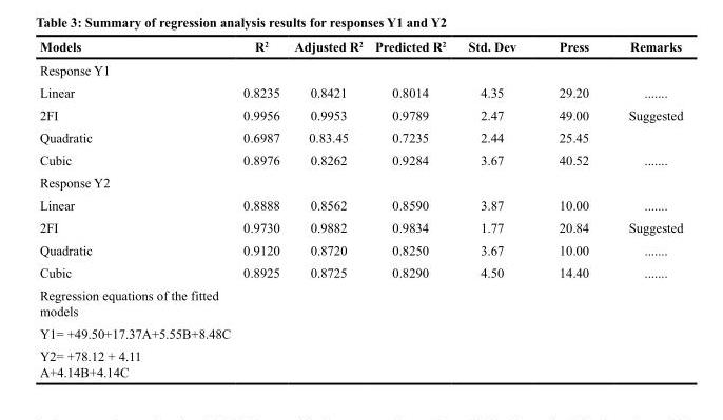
<table><thead><tr><td>Models</td><td>R<sup>2</sup></td><td>Adjusted R<sup>2</sup></td><td>Predicted R<sup>2</sup></td><td>Std. Dev</td><td>Press</td><td>Remarks</td></tr></thead><tbody><tr><td colspan="7">Response Y1</td></tr><tr><td>Linear</td><td>0.8235</td><td>0.8421</td><td>0.8014</td><td>4.35</td><td>29.20</td><td>.......</td></tr><tr><td>2FI</td><td>0.9956</td><td>0.9953</td><td>0.9789</td><td>2.47</td><td>49.00</td><td>Suggested</td></tr><tr><td>Quadratic</td><td>0.6987</td><td>0.83.45</td><td>0.7235</td><td>2.44</td><td>25.45</td><td></td></tr><tr><td>Cubic</td><td>0.8976</td><td>0.8262</td><td>0.9284</td><td>3.67</td><td>40.52</td><td>.......</td></tr><tr><td colspan="7">Response Y2</td></tr><tr><td>Linear</td><td>0.8888</td><td>0.8562</td><td>0.8590</td><td>3.87</td><td>10.00</td><td>.......</td></tr><tr><td>2FI</td><td>0.9730</td><td>0.9882</td><td>0.9834</td><td>1.77</td><td>20.84</td><td>Suggested</td></tr><tr><td>Quadratic</td><td>0.9120</td><td>0.8720</td><td>0.8250</td><td>3.67</td><td>10.00</td><td>.......</td></tr><tr><td>Cubic</td><td>0.8925</td><td>0.8725</td><td>0.8290</td><td>4.50</td><td>14.40</td><td>.......</td></tr><tr><td colspan="7">Regression equations of the fitted models</td></tr><tr><td colspan="7">Y1= +49.50+17.37A+5.55B+8.48C</td></tr><tr><td>Y2= +78.12 + 4.11 A+4.14B+4.14C</td><td></td><td></td><td></td><td></td><td></td><td></td></tr></tbody></table>